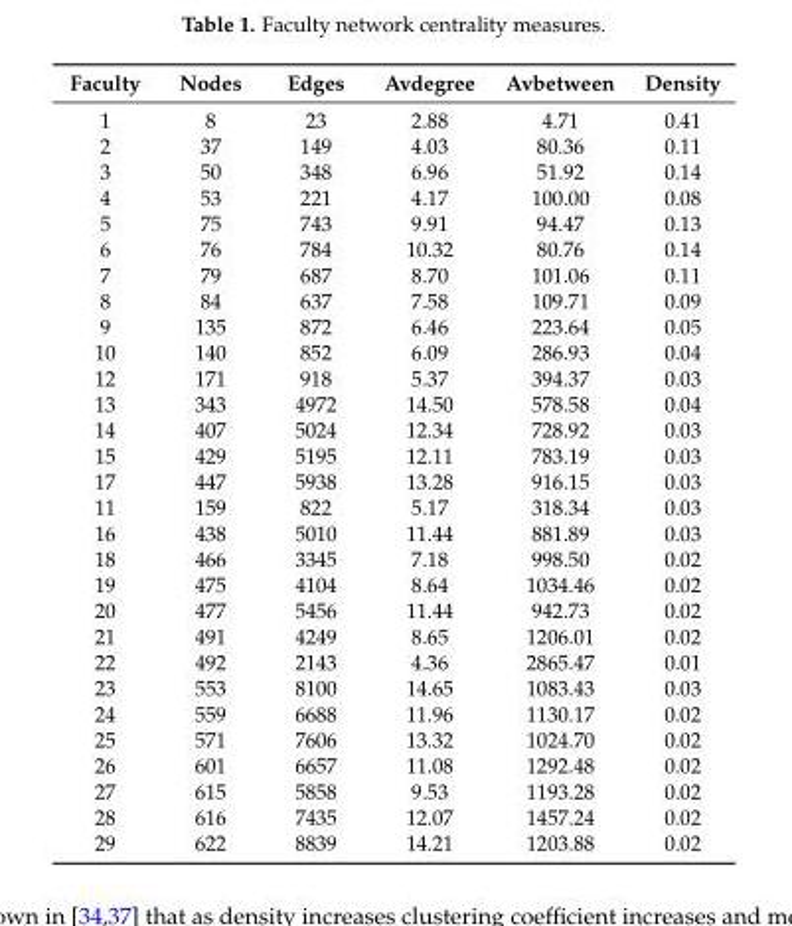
<table><thead><tr><td>Faculty</td><td>Nodes</td><td>Edges</td><td>Avdegree</td><td>Avbetween</td><td>Density</td></tr></thead><tbody><tr><td>1</td><td>8</td><td>23</td><td>2.88</td><td>4.71</td><td>0.41</td></tr><tr><td>2</td><td>37</td><td>149</td><td>4.03</td><td>80.36</td><td>0.11</td></tr><tr><td>3</td><td>50</td><td>348</td><td>6.96</td><td>51.92</td><td>0.14</td></tr><tr><td>4</td><td>53</td><td>221</td><td>4.17</td><td>100.00</td><td>0.08</td></tr><tr><td>5</td><td>75</td><td>743</td><td>9.91</td><td>94.47</td><td>0.13</td></tr><tr><td>6</td><td>76</td><td>784</td><td>10.32</td><td>80.76</td><td>0.14</td></tr><tr><td>7</td><td>79</td><td>687</td><td>8.70</td><td>101.06</td><td>0.11</td></tr><tr><td>8</td><td>84</td><td>637</td><td>7.58</td><td>109.71</td><td>0.09</td></tr><tr><td>9</td><td>135</td><td>872</td><td>6.46</td><td>223.64</td><td>0.05</td></tr><tr><td>10</td><td>140</td><td>852</td><td>6.09</td><td>286.93</td><td>0.04</td></tr><tr><td>12</td><td>171</td><td>918</td><td>5.37</td><td>394.37</td><td>0.03</td></tr><tr><td>13</td><td>343</td><td>4972</td><td>14.50</td><td>578.58</td><td>0.04</td></tr><tr><td>14</td><td>407</td><td>5024</td><td>12.34</td><td>728.92</td><td>0.03</td></tr><tr><td>15</td><td>429</td><td>5195</td><td>12.11</td><td>783.19</td><td>0.03</td></tr><tr><td>17</td><td>447</td><td>5938</td><td>13.28</td><td>916.15</td><td>0.03</td></tr><tr><td>11</td><td>159</td><td>822</td><td>5.17</td><td>318.34</td><td>0.03</td></tr><tr><td>16</td><td>438</td><td>5010</td><td>11.44</td><td>881.89</td><td>0.03</td></tr><tr><td>18</td><td>466</td><td>3345</td><td>7.18</td><td>998.50</td><td>0.02</td></tr><tr><td>19</td><td>475</td><td>4104</td><td>8.64</td><td>1034.46</td><td>0.02</td></tr><tr><td>20</td><td>477</td><td>5456</td><td>11.44</td><td>942.73</td><td>0.02</td></tr><tr><td>21</td><td>491</td><td>4249</td><td>8.65</td><td>1206.01</td><td>0.02</td></tr><tr><td>22</td><td>492</td><td>2143</td><td>4.36</td><td>2865.47</td><td>0.01</td></tr><tr><td>23</td><td>553</td><td>8100</td><td>14.65</td><td>1083.43</td><td>0.03</td></tr><tr><td>24</td><td>559</td><td>6688</td><td>11.96</td><td>1130.17</td><td>0.02</td></tr><tr><td>25</td><td>571</td><td>7606</td><td>13.32</td><td>1024.70</td><td>0.02</td></tr><tr><td>26</td><td>601</td><td>6657</td><td>11.08</td><td>1292.48</td><td>0.02</td></tr><tr><td>27</td><td>615</td><td>5858</td><td>9.53</td><td>1193.28</td><td>0.02</td></tr><tr><td>28</td><td>616</td><td>7435</td><td>12.07</td><td>1457.24</td><td>0.02</td></tr><tr><td>29</td><td>622</td><td>8839</td><td>14.21</td><td>1203.88</td><td>0.02</td></tr></tbody></table>